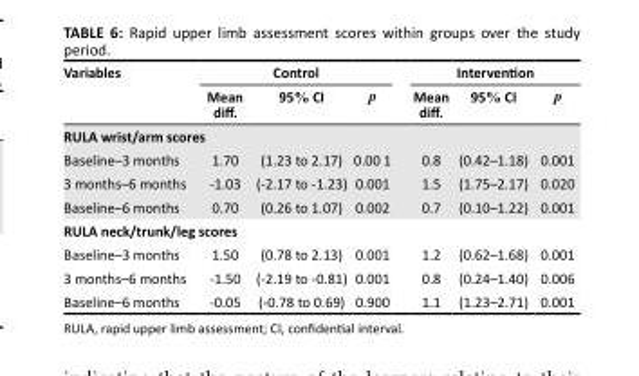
<table><thead><tr><td rowspan="2">Variables</td><td colspan="3">Control</td><td colspan="3">Intervention</td></tr><tr><td>Mean diff.</td><td>95% CI</td><td>p</td><td>Mean diff.</td><td>95% CI</td><td>p</td></tr></thead><tbody><tr><td colspan="7">RULA wrist/arm scores</td></tr><tr><td>Baseline–3 months</td><td>1.70</td><td>(1.23 to 2.17)</td><td>0.00 1</td><td>0.8</td><td>(0.42–1.18)</td><td>0.001</td></tr><tr><td>3 months–6 months</td><td>-1.03</td><td>(-2.17 to -1.23)</td><td>0.001</td><td>1.5</td><td>(1.75–2.17)</td><td>0.020</td></tr><tr><td>Baseline–6 months</td><td>0.70</td><td>(0.26 to 1.07)</td><td>0.002</td><td>0.7</td><td>(0.10–1.22)</td><td>0.001</td></tr><tr><td colspan="7">RULA neck/trunk/leg scores</td></tr><tr><td>Baseline–3 months</td><td>1.50</td><td>(0.78 to 2.13)</td><td>0.001</td><td>1.2</td><td>(0.62–1.68)</td><td>0.001</td></tr><tr><td>3 months–6 months</td><td>-1.50</td><td>(-2.19 to -0.81)</td><td>0.001</td><td>0.8</td><td>(0.24–1.40)</td><td>0.006</td></tr><tr><td>Baseline–6 months</td><td>-0.05</td><td>(-0.78 to 0.69)</td><td>0.900</td><td>1.1</td><td>(1.23–2.71)</td><td>0.001</td></tr></tbody></table>